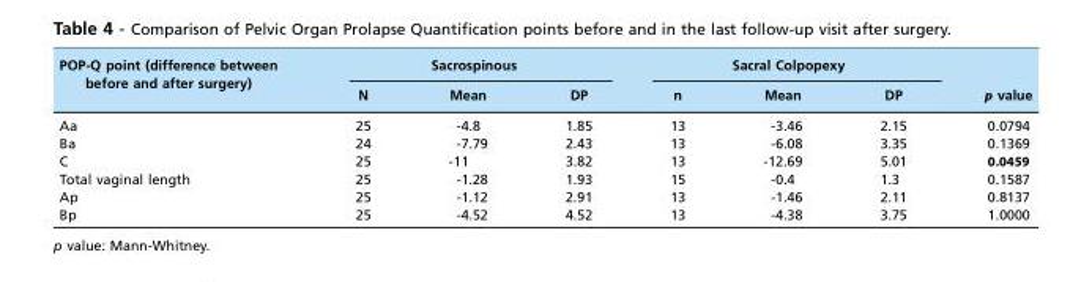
<table><thead><tr><td rowspan="2">POP-Q point (difference between before and after surgery)</td><td colspan="3">Sacrospinous</td><td colspan="3">Sacral Colpopexy</td><td rowspan="2">p value</td></tr><tr><td>N</td><td>Mean</td><td>DP</td><td>n</td><td>Mean</td><td>DP</td></tr></thead><tbody><tr><td>Aa</td><td>25</td><td>-4.8</td><td>1.85</td><td>13</td><td>-3.46</td><td>2.15</td><td>0.0794</td></tr><tr><td>Ba</td><td>24</td><td>-7.79</td><td>2.43</td><td>13</td><td>-6.08</td><td>3.35</td><td>0.1369</td></tr><tr><td>C</td><td>25</td><td>-11</td><td>3.82</td><td>13</td><td>-12.69</td><td>5.01</td><td>0.0459</td></tr><tr><td>Total vaginal length</td><td>25</td><td>-1.28</td><td>1.93</td><td>15</td><td>-0.4</td><td>1.3</td><td>0.1587</td></tr><tr><td>Ap</td><td>25</td><td>-1.12</td><td>2.91</td><td>13</td><td>-1.46</td><td>2.11</td><td>0.8137</td></tr><tr><td>Bp</td><td>25</td><td>-4.52</td><td>4.52</td><td>13</td><td>-4.38</td><td>3.75</td><td>1.0000</td></tr></tbody></table>